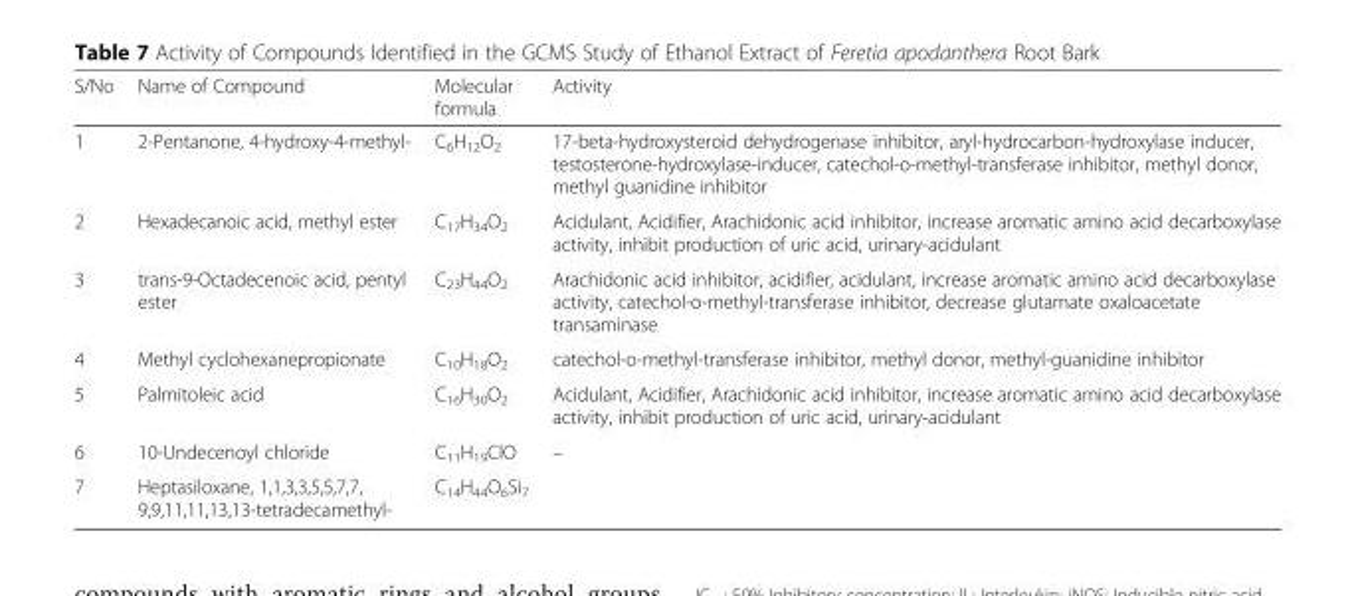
<table><thead><tr><td>S/No</td><td>Name of Compound</td><td>Molecular formula</td><td>Activity</td></tr></thead><tbody><tr><td>1</td><td>2-Pentanone, 4-hydroxy-4-methyl-</td><td>C<sub>6</sub>H<sub>12</sub>O<sub>2</sub></td><td>17-beta-hydroxysteroid dehydrogenase inhibitor, aryl-hydrocarbon-hydroxylase inducer, testosterone-hydroxylase-inducer, catechol-o-methyl-transferase inhibitor, methyl donor, methyl guanidine inhibitor</td></tr><tr><td>2</td><td>Hexadecanoic acid, methyl ester</td><td>C<sub>17</sub>H<sub>34</sub>O<sub>2</sub></td><td>Acidulant, Acidifier, Arachidonic acid inhibitor, increase aromatic amino acid decarboxylase activity, inhibit production of uric acid, urinary-acidulant</td></tr><tr><td>3</td><td>trans-9-Octadecenoic acid, pentyl ester</td><td>C<sub>23</sub>H<sub>44</sub>O<sub>2</sub></td><td>Arachidonic acid inhibitor, acidifier, acidulant, increase aromatic amino acid decarboxylase activity, catechol-o-methyl-transferase inhibitor, decrease glutamate oxaloacetate transaminase</td></tr><tr><td>4</td><td>Methyl cyclohexanepropionate</td><td>C<sub>10</sub>H<sub>18</sub>O<sub>2</sub></td><td>catechol-o-methyl-transferase inhibitor, methyl donor, methyl-guanidine inhibitor</td></tr><tr><td>5</td><td>Palmitoleic acid</td><td>C<sub>16</sub>H<sub>30</sub>O<sub>2</sub></td><td>Acidulant, Acidifier, Arachidonic acid inhibitor, increase aromatic amino acid decarboxylase activity, inhibit production of uric acid, urinary-acidulant</td></tr><tr><td>6</td><td>10-Undecenoyl chloride</td><td>C<sub>11</sub>H<sub>19</sub>ClO</td><td>–</td></tr><tr><td>7</td><td>Heptasiloxane, 1,1,3,3,5,5,7,7, 9,9,11,11,13,13-tetradecamethyl-</td><td>C<sub>14</sub>H<sub>44</sub>O<sub>6</sub>Si<sub>7</sub></td><td></td></tr></tbody></table>